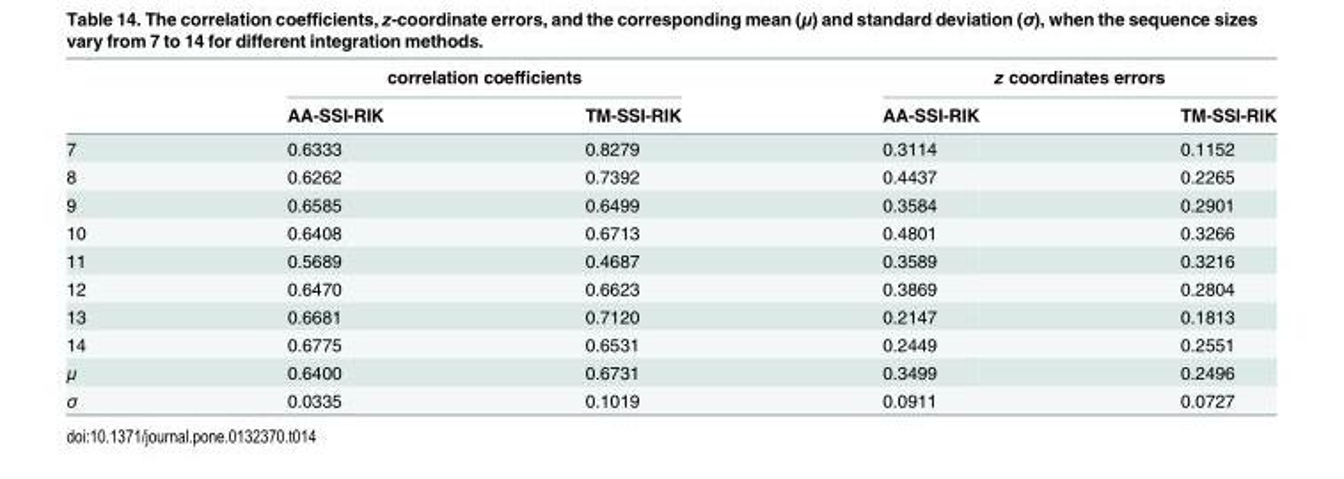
<table><thead><tr><td rowspan="2"></td><td colspan="2">correlation coefficients</td><td colspan="2">z coordinates errors</td></tr><tr><td>AA-SSI-RIK</td><td>TM-SSI-RIK</td><td>AA-SSI-RIK</td><td>TM-SSI-RIK</td></tr></thead><tbody><tr><td>7</td><td>0.6333</td><td>0.8279</td><td>0.3114</td><td>0.1152</td></tr><tr><td>8</td><td>0.6262</td><td>0.7392</td><td>0.4437</td><td>0.2265</td></tr><tr><td>9</td><td>0.6585</td><td>0.6499</td><td>0.3584</td><td>0.2901</td></tr><tr><td>10</td><td>0.6408</td><td>0.6713</td><td>0.4801</td><td>0.3266</td></tr><tr><td>11</td><td>0.5689</td><td>0.4687</td><td>0.3589</td><td>0.3216</td></tr><tr><td>12</td><td>0.6470</td><td>0.6623</td><td>0.3869</td><td>0.2804</td></tr><tr><td>13</td><td>0.6681</td><td>0.7120</td><td>0.2147</td><td>0.1813</td></tr><tr><td>14</td><td>0.6775</td><td>0.6531</td><td>0.2449</td><td>0.2551</td></tr><tr><td>μ</td><td>0.6400</td><td>0.6731</td><td>0.3499</td><td>0.2496</td></tr><tr><td>σ</td><td>0.0335</td><td>0.1019</td><td>0.0911</td><td>0.0727</td></tr></tbody></table>